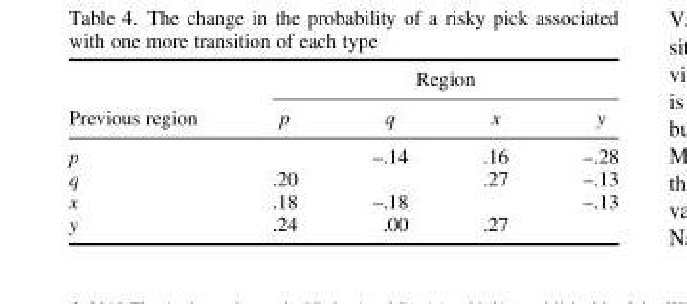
<table><thead><tr><td rowspan="2">Previous region</td><td colspan="4">Region</td></tr><tr><td>p</td><td>q</td><td>x</td><td>y</td></tr></thead><tbody><tr><td>p</td><td></td><td>–.14</td><td>.16</td><td>–.28</td></tr><tr><td>q</td><td>.20</td><td></td><td>.27</td><td>–.13</td></tr><tr><td>x</td><td>.18</td><td>–.18</td><td></td><td>–.13</td></tr><tr><td>y</td><td>.24</td><td>.00</td><td>.27</td><td></td></tr></tbody></table>